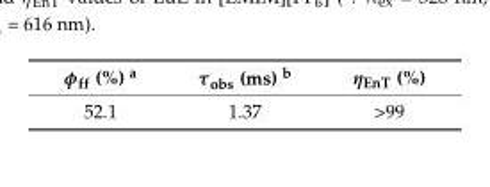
<table><thead><tr><td>φ<sub>ff</sub> (%) <sup>a</sup></td><td>τ<sub>obs</sub> (ms) <sup>b</sup></td><td>η<sub>EnT</sub> (%)</td></tr></thead><tbody><tr><td>52.1</td><td>1.37</td><td>&gt;99</td></tr></tbody></table>